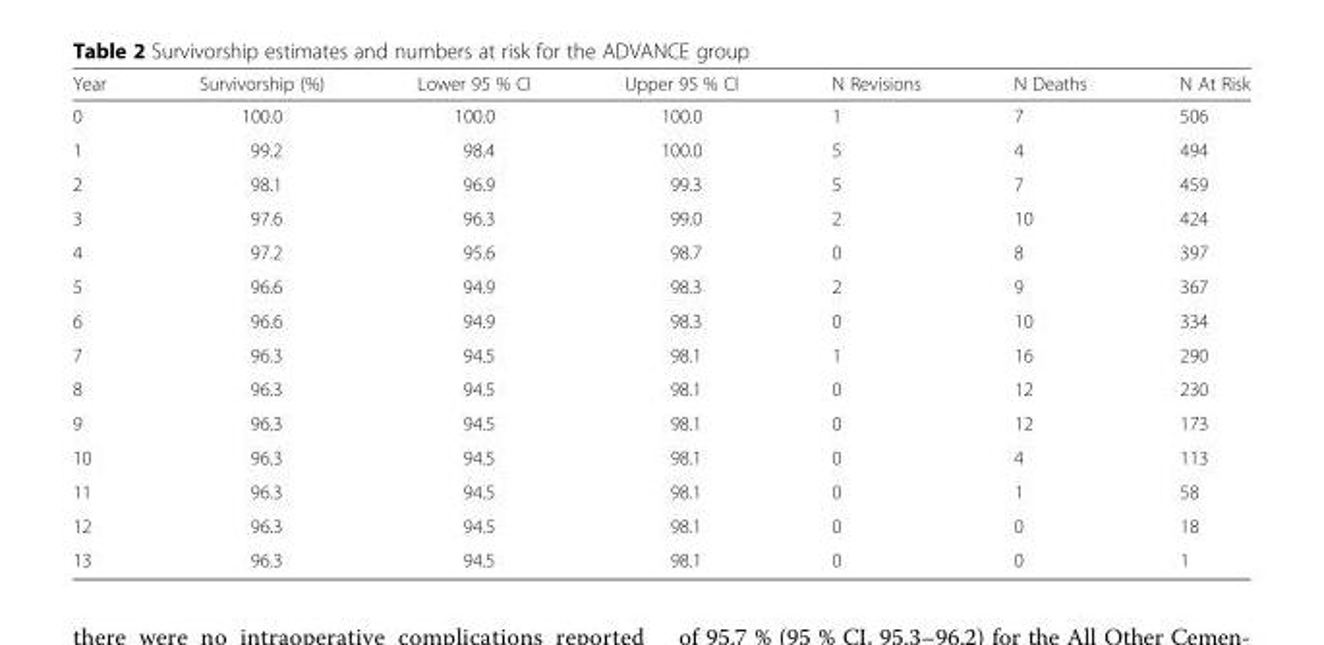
<table><thead><tr><td>Year</td><td>Survivorship (%)</td><td>Lower 95 % CI</td><td>Upper 95 % CI</td><td>N Revisions</td><td>N Deaths</td><td>N At Risk</td></tr></thead><tbody><tr><td>0</td><td>100.0</td><td>100.0</td><td>100.0</td><td>1</td><td>7</td><td>506</td></tr><tr><td>1</td><td>99.2</td><td>98.4</td><td>100.0</td><td>5</td><td>4</td><td>494</td></tr><tr><td>2</td><td>98.1</td><td>96.9</td><td>99.3</td><td>5</td><td>7</td><td>459</td></tr><tr><td>3</td><td>97.6</td><td>96.3</td><td>99.0</td><td>2</td><td>10</td><td>424</td></tr><tr><td>4</td><td>97.2</td><td>95.6</td><td>98.7</td><td>0</td><td>8</td><td>397</td></tr><tr><td>5</td><td>96.6</td><td>94.9</td><td>98.3</td><td>2</td><td>9</td><td>367</td></tr><tr><td>6</td><td>96.6</td><td>94.9</td><td>98.3</td><td>0</td><td>10</td><td>334</td></tr><tr><td>7</td><td>96.3</td><td>94.5</td><td>98.1</td><td>1</td><td>16</td><td>290</td></tr><tr><td>8</td><td>96.3</td><td>94.5</td><td>98.1</td><td>0</td><td>12</td><td>230</td></tr><tr><td>9</td><td>96.3</td><td>94.5</td><td>98.1</td><td>0</td><td>12</td><td>173</td></tr><tr><td>10</td><td>96.3</td><td>94.5</td><td>98.1</td><td>0</td><td>4</td><td>113</td></tr><tr><td>11</td><td>96.3</td><td>94.5</td><td>98.1</td><td>0</td><td>1</td><td>58</td></tr><tr><td>12</td><td>96.3</td><td>94.5</td><td>98.1</td><td>0</td><td>0</td><td>18</td></tr><tr><td>13</td><td>96.3</td><td>94.5</td><td>98.1</td><td>0</td><td>0</td><td>1</td></tr></tbody></table>